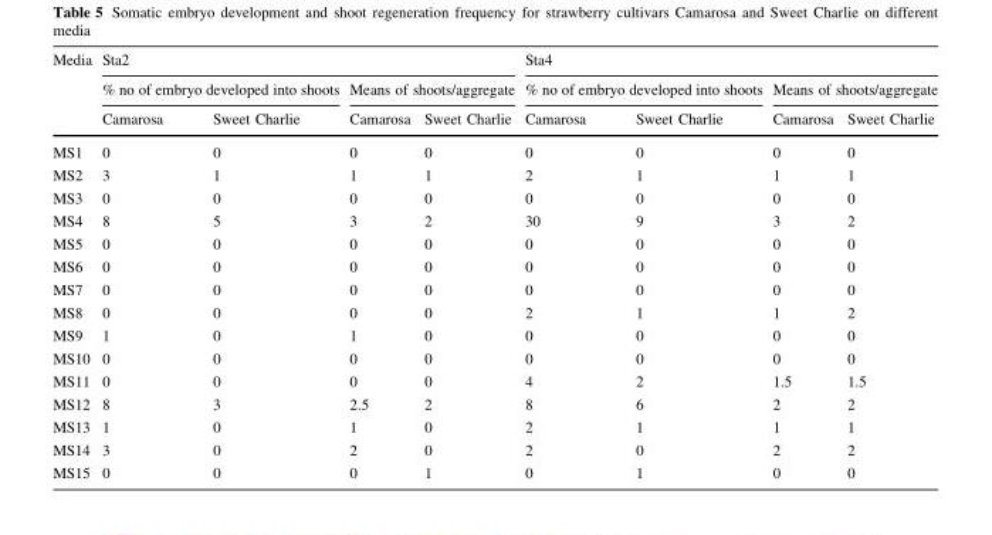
<table><thead><tr><td rowspan="3">Media</td><td colspan="4">Sta2</td><td colspan="4">Sta4</td></tr><tr><td colspan="2">% no of embryo developed into shoots</td><td colspan="2">Means of shoots/aggregate</td><td colspan="2">% no of embryo developed into shoots</td><td colspan="2">Means of shoots/aggregate</td></tr><tr><td>Camarosa</td><td>Sweet Charlie</td><td>Camarosa</td><td>Sweet Charlie</td><td>Camarosa</td><td>Sweet Charlie</td><td>Camarosa</td><td>Sweet Charlie</td></tr></thead><tbody><tr><td>MS1</td><td>0</td><td>0</td><td>0</td><td>0</td><td>0</td><td>0</td><td>0</td><td>0</td></tr><tr><td>MS2</td><td>3</td><td>1</td><td>1</td><td>1</td><td>2</td><td>1</td><td>1</td><td>1</td></tr><tr><td>MS3</td><td>0</td><td>0</td><td>0</td><td>0</td><td>0</td><td>0</td><td>0</td><td>0</td></tr><tr><td>MS4</td><td>8</td><td>5</td><td>3</td><td>2</td><td>30</td><td>9</td><td>3</td><td>2</td></tr><tr><td>MS5</td><td>0</td><td>0</td><td>0</td><td>0</td><td>0</td><td>0</td><td>0</td><td>0</td></tr><tr><td>MS6</td><td>0</td><td>0</td><td>0</td><td>0</td><td>0</td><td>0</td><td>0</td><td>0</td></tr><tr><td>MS7</td><td>0</td><td>0</td><td>0</td><td>0</td><td>0</td><td>0</td><td>0</td><td>0</td></tr><tr><td>MS8</td><td>0</td><td>0</td><td>0</td><td>0</td><td>2</td><td>1</td><td>1</td><td>2</td></tr><tr><td>MS9</td><td>1</td><td>0</td><td>1</td><td>0</td><td>0</td><td>0</td><td>0</td><td>0</td></tr><tr><td>MS10</td><td>0</td><td>0</td><td>0</td><td>0</td><td>0</td><td>0</td><td>0</td><td>0</td></tr><tr><td>MS11</td><td>0</td><td>0</td><td>0</td><td>0</td><td>4</td><td>2</td><td>1.5</td><td>1.5</td></tr><tr><td>MS12</td><td>8</td><td>3</td><td>2.5</td><td>2</td><td>8</td><td>6</td><td>2</td><td>2</td></tr><tr><td>MS13</td><td>1</td><td>0</td><td>1</td><td>0</td><td>2</td><td>1</td><td>1</td><td>1</td></tr><tr><td>MS14</td><td>3</td><td>0</td><td>2</td><td>0</td><td>2</td><td>0</td><td>2</td><td>2</td></tr><tr><td>MS15</td><td>0</td><td>0</td><td>0</td><td>1</td><td>0</td><td>1</td><td>0</td><td>0</td></tr></tbody></table>